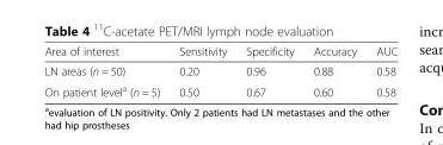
<table><thead><tr><td>Area of interest</td><td>Sensitivity</td><td>Specificity</td><td>Accuracy</td><td>AUC</td></tr></thead><tbody><tr><td>LN areas (n = 50)</td><td>0.20</td><td>0.96</td><td>0.88</td><td>0.58</td></tr><tr><td>On patient level<sup>a</sup> (n = 5)</td><td>0.50</td><td>0.67</td><td>0.60</td><td>0.58</td></tr></tbody></table>